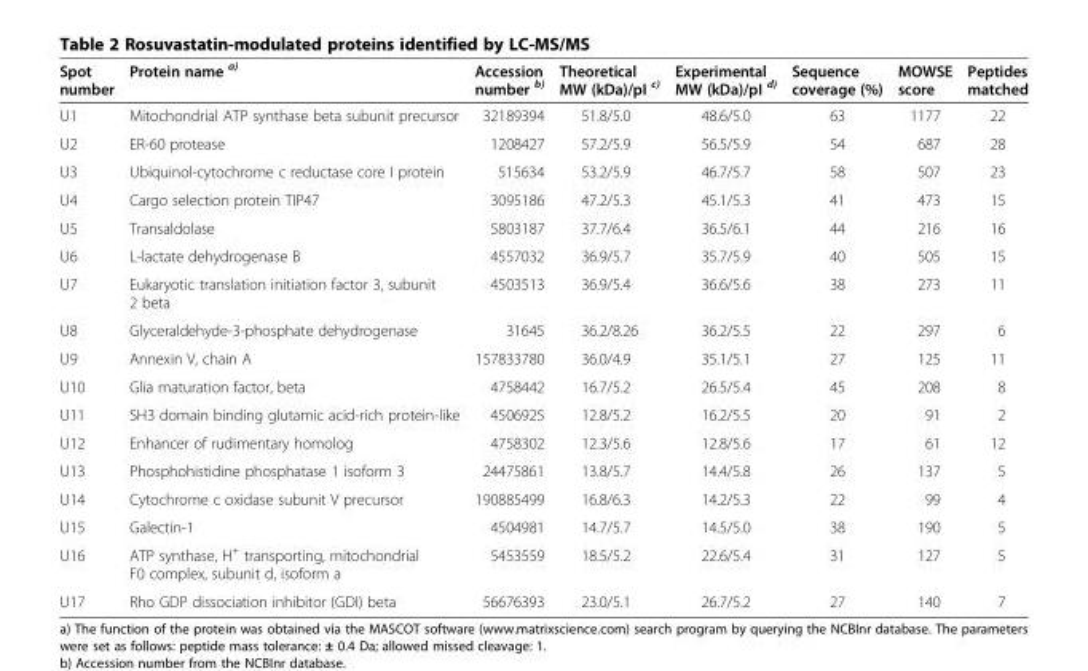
<table><thead><tr><td>Spot number</td><td>Protein name <sup>a)</sup></td><td>Accession number <sup>b)</sup></td><td>Theoretical MW (kDa)/pI <sup>c)</sup></td><td>Experimental MW (kDa)/pI <sup>d)</sup></td><td>Sequence coverage (%)</td><td>MOWSE score</td><td>Peptides matched</td></tr></thead><tbody><tr><td>U1</td><td>Mitochondrial ATP synthase beta subunit precursor</td><td>32189394</td><td>51.8/5.0</td><td>48.6/5.0</td><td>63</td><td>1177</td><td>22</td></tr><tr><td>U2</td><td>ER-60 protease</td><td>1208427</td><td>57.2/5.9</td><td>56.5/5.9</td><td>54</td><td>687</td><td>28</td></tr><tr><td>U3</td><td>Ubiquinol-cytochrome c reductase core I protein</td><td>515634</td><td>53.2/5.9</td><td>46.7/5.7</td><td>58</td><td>507</td><td>23</td></tr><tr><td>U4</td><td>Cargo selection protein TIP47</td><td>3095186</td><td>47.2/5.3</td><td>45.1/5.3</td><td>41</td><td>473</td><td>15</td></tr><tr><td>U5</td><td>Transaldolase</td><td>5803187</td><td>37.7/6.4</td><td>36.5/6.1</td><td>44</td><td>216</td><td>16</td></tr><tr><td>U6</td><td>L-lactate dehydrogenase B</td><td>4557032</td><td>36.9/5.7</td><td>35.7/5.9</td><td>40</td><td>505</td><td>15</td></tr><tr><td>U7</td><td>Eukaryotic translation initiation factor 3, subunit 2 beta</td><td>4503513</td><td>36.9/5.4</td><td>36.6/5.6</td><td>38</td><td>273</td><td>11</td></tr><tr><td>U8</td><td>Glyceraldehyde-3-phosphate dehydrogenase</td><td>31645</td><td>36.2/8.26</td><td>36.2/5.5</td><td>22</td><td>297</td><td>6</td></tr><tr><td>U9</td><td>Annexin V, chain A</td><td>157833780</td><td>36.0/4.9</td><td>35.1/5.1</td><td>27</td><td>125</td><td>11</td></tr><tr><td>U10</td><td>Glia maturation factor, beta</td><td>4758442</td><td>16.7/5.2</td><td>26.5/5.4</td><td>45</td><td>208</td><td>8</td></tr><tr><td>U11</td><td>SH3 domain binding glutamic acid-rich protein-like</td><td>4506925</td><td>12.8/5.2</td><td>16.2/5.5</td><td>20</td><td>91</td><td>2</td></tr><tr><td>U12</td><td>Enhancer of rudimentary homolog</td><td>4758302</td><td>12.3/5.6</td><td>12.8/5.6</td><td>17</td><td>61</td><td>12</td></tr><tr><td>U13</td><td>Phosphohistidine phosphatase 1 isoform 3</td><td>24475861</td><td>13.8/5.7</td><td>14.4/5.8</td><td>26</td><td>137</td><td>5</td></tr><tr><td>U14</td><td>Cytochrome c oxidase subunit V precursor</td><td>190885499</td><td>16.8/6.3</td><td>14.2/5.3</td><td>22</td><td>99</td><td>4</td></tr><tr><td>U15</td><td>Galectin-1</td><td>4504981</td><td>14.7/5.7</td><td>14.5/5.0</td><td>38</td><td>190</td><td>5</td></tr><tr><td>U16</td><td>ATP synthase, H<sup>+</sup> transporting, mitochondrial F0 complex, subunit d, isoform a</td><td>5453559</td><td>18.5/5.2</td><td>22.6/5.4</td><td>31</td><td>127</td><td>5</td></tr><tr><td>U17</td><td>Rho GDP dissociation inhibitor (GDI) beta</td><td>56676393</td><td>23.0/5.1</td><td>26.7/5.2</td><td>27</td><td>140</td><td>7</td></tr></tbody></table>